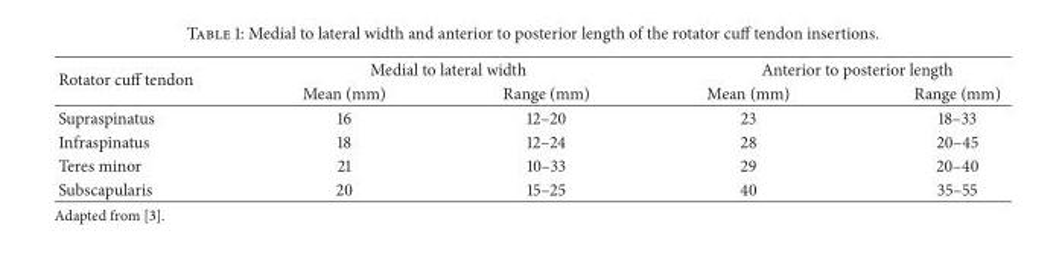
<table><thead><tr><td rowspan="2">Rotator cuff tendon</td><td colspan="2">Medial to lateral width</td><td colspan="2">Anterior to posterior length</td></tr><tr><td>Mean (mm)</td><td>Range (mm)</td><td>Mean (mm)</td><td>Range (mm)</td></tr></thead><tbody><tr><td>Supraspinatus</td><td>16</td><td>12–20</td><td>23</td><td>18–33</td></tr><tr><td>Infraspinatus</td><td>18</td><td>12–24</td><td>28</td><td>20–45</td></tr><tr><td>Teres minor</td><td>21</td><td>10–33</td><td>29</td><td>20–40</td></tr><tr><td>Subscapularis</td><td>20</td><td>15–25</td><td>40</td><td>35–55</td></tr></tbody></table>